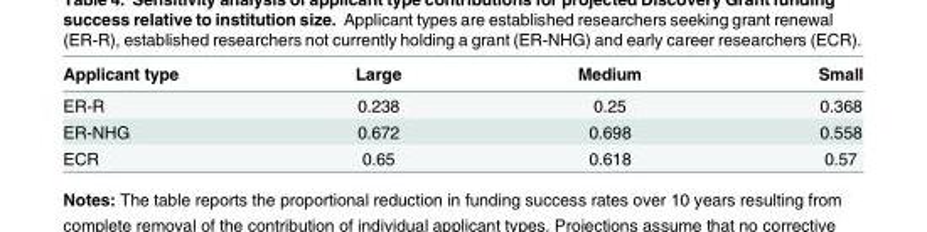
<table><thead><tr><td>Applicant type</td><td>Large</td><td>Medium</td><td>Small</td></tr></thead><tbody><tr><td>ER-R</td><td>0.238</td><td>0.25</td><td>0.368</td></tr><tr><td>ER-NHG</td><td>0.672</td><td>0.698</td><td>0.558</td></tr><tr><td>ECR</td><td>0.65</td><td>0.618</td><td>0.57</td></tr></tbody></table>